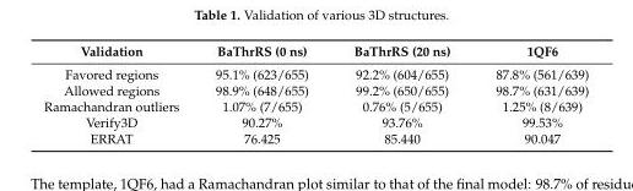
<table><thead><tr><td>Validation</td><td>BaThrRS (0 ns)</td><td>BaThrRS (20 ns)</td><td>1QF6</td></tr></thead><tbody><tr><td>Favored regions</td><td>95.1% (623/655)</td><td>92.2% (604/655)</td><td>87.8% (561/639)</td></tr><tr><td>Allowed regions</td><td>98.9% (648/655)</td><td>99.2% (650/655)</td><td>98.7% (631/639)</td></tr><tr><td>Ramachandran outliers</td><td>1.07% (7/655)</td><td>0.76% (5/655)</td><td>1.25% (8/639)</td></tr><tr><td>Verify3D</td><td>90.27%</td><td>93.76%</td><td>99.53%</td></tr><tr><td>ERRAT</td><td>76.425</td><td>85.440</td><td>90.047</td></tr></tbody></table>